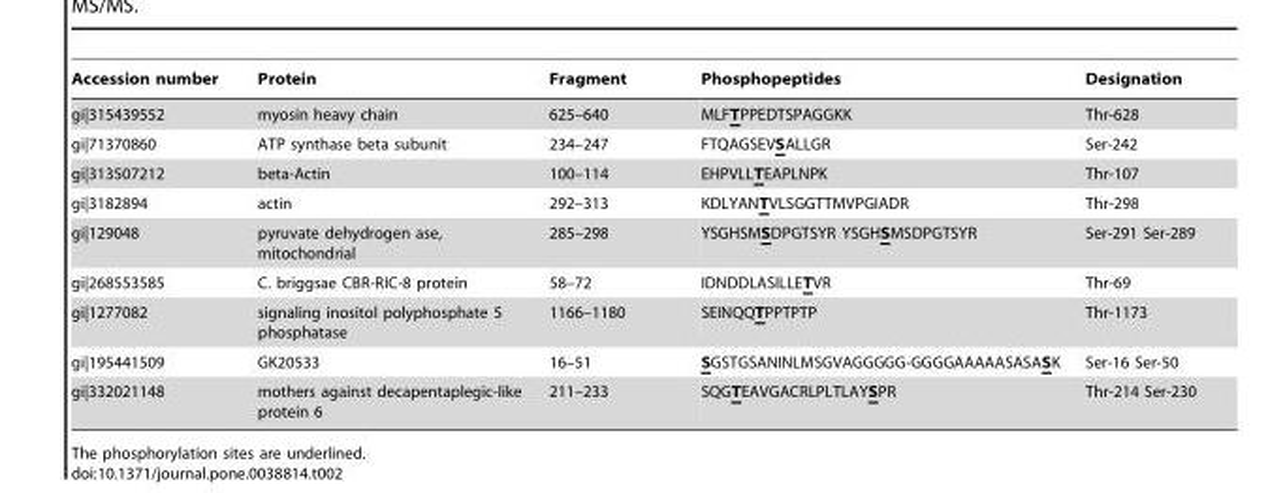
<table><thead><tr><td>Accession number</td><td>Protein</td><td>Fragment</td><td>Phosphopeptides</td><td>Designation</td></tr></thead><tbody><tr><td>gi|315439552</td><td>myosin heavy chain</td><td>625–640</td><td>MLFTPPEDTSPAGGKK</td><td>Thr-628</td></tr><tr><td>gi|71370860</td><td>ATP synthase beta subunit</td><td>234–247</td><td>FTQAGSEVSALLGR</td><td>Ser-242</td></tr><tr><td>gi|313507212</td><td>beta-Actin</td><td>100–114</td><td>EHPVLLTEAPLNPK</td><td>Thr-107</td></tr><tr><td>gi|3182894</td><td>actin</td><td>292–313</td><td>KDLYANTVLSGGTTMVPGIADR</td><td>Thr-298</td></tr><tr><td>gi|129048</td><td>pyruvate dehydrogen ase, mitochondrial</td><td>285–298</td><td>YSGHSMSDPGTSYR YSGHSMSDPGTSYR</td><td>Ser-291 Ser-289</td></tr><tr><td>gi|268553585</td><td>C. briggsae CBR-RIC-8 protein</td><td>58–72</td><td>IDNDDLASILLETVR</td><td>Thr-69</td></tr><tr><td>gi|1277082</td><td>signaling inositol polyphosphate 5 phosphatase</td><td>1166–1180</td><td>SEINQQTPPTPTP</td><td>Thr-1173</td></tr><tr><td>gi|195441509</td><td>GK20533</td><td>16–51</td><td>SGSTGSANINLMSGVAGGGGG-GGGGAAAAASASASK</td><td>Ser-16 Ser-50</td></tr><tr><td>gi|332021148</td><td>mothers against decapentaplegic-like protein 6</td><td>211–233</td><td>SQGTEAVGACRLPLTLAYSPR</td><td>Thr-214 Ser-230</td></tr></tbody></table>